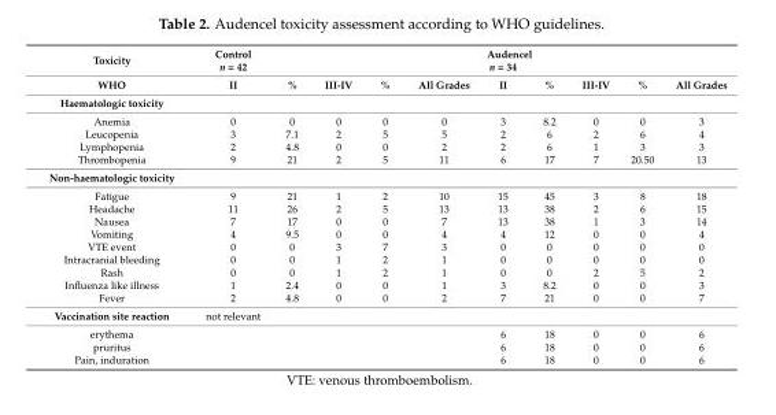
<table><thead><tr><td rowspan="2">Toxicity WHO</td><td rowspan="2">Control n = 42 II</td><td rowspan="2">%</td><td rowspan="2">III-IV</td><td rowspan="2">%</td><td rowspan="2">All Grades</td><td rowspan="2">Audencel n = 34 II</td><td rowspan="2">%</td><td rowspan="2">III-IV</td><td rowspan="2">%</td><td rowspan="2">All Grades</td></tr><tr></tr></thead><tbody><tr><td colspan="11">Haematologic toxicity</td></tr><tr><td>Anemia</td><td>0</td><td>0</td><td>0</td><td>0</td><td>0</td><td>3</td><td>8.2</td><td>0</td><td>0</td><td>3</td></tr><tr><td>Leucopenia</td><td>3</td><td>7.1</td><td>2</td><td>5</td><td>5</td><td>2</td><td>6</td><td>2</td><td>6</td><td>4</td></tr><tr><td>Lymphopenia</td><td>2</td><td>4.8</td><td>0</td><td>0</td><td>2</td><td>2</td><td>6</td><td>1</td><td>3</td><td>3</td></tr><tr><td>Thrombopenia</td><td>9</td><td>21</td><td>2</td><td>5</td><td>11</td><td>6</td><td>17</td><td>7</td><td>20.50</td><td>13</td></tr><tr><td colspan="11">Non-haematologic toxicity</td></tr><tr><td>Fatigue</td><td>9</td><td>21</td><td>1</td><td>2</td><td>10</td><td>15</td><td>45</td><td>3</td><td>8</td><td>18</td></tr><tr><td>Headache</td><td>11</td><td>26</td><td>2</td><td>5</td><td>13</td><td>13</td><td>38</td><td>2</td><td>6</td><td>15</td></tr><tr><td>Nausea</td><td>7</td><td>17</td><td>0</td><td>0</td><td>7</td><td>13</td><td>38</td><td>1</td><td>3</td><td>14</td></tr><tr><td>Vomiting</td><td>4</td><td>9.5</td><td>0</td><td>0</td><td>4</td><td>4</td><td>12</td><td>0</td><td>0</td><td>4</td></tr><tr><td>VTE event</td><td>0</td><td>0</td><td>3</td><td>7</td><td>3</td><td>0</td><td>0</td><td>0</td><td>0</td><td>0</td></tr><tr><td>Intracranial bleeding</td><td>0</td><td>0</td><td>1</td><td>2</td><td>1</td><td>0</td><td>0</td><td>0</td><td>0</td><td>0</td></tr><tr><td>Rash</td><td>0</td><td>0</td><td>1</td><td>2</td><td>1</td><td>0</td><td>0</td><td>2</td><td>5</td><td>2</td></tr><tr><td>Influenza like illness</td><td>1</td><td>2.4</td><td>0</td><td>0</td><td>1</td><td>3</td><td>8.2</td><td>0</td><td>0</td><td>3</td></tr><tr><td>Fever</td><td>2</td><td>4.8</td><td>0</td><td>0</td><td>2</td><td>7</td><td>21</td><td>0</td><td>0</td><td>7</td></tr><tr><td>Vaccination site reaction</td><td>not relevant</td><td></td><td></td><td></td><td></td><td></td><td></td><td></td><td></td><td></td></tr><tr><td>erythema</td><td></td><td></td><td></td><td></td><td></td><td>6</td><td>18</td><td>0</td><td>0</td><td>6</td></tr><tr><td>pruritus</td><td></td><td></td><td></td><td></td><td></td><td>6</td><td>18</td><td>0</td><td>0</td><td>6</td></tr><tr><td>Pain, induration</td><td></td><td></td><td></td><td></td><td></td><td>6</td><td>18</td><td>0</td><td>0</td><td>6</td></tr></tbody></table>